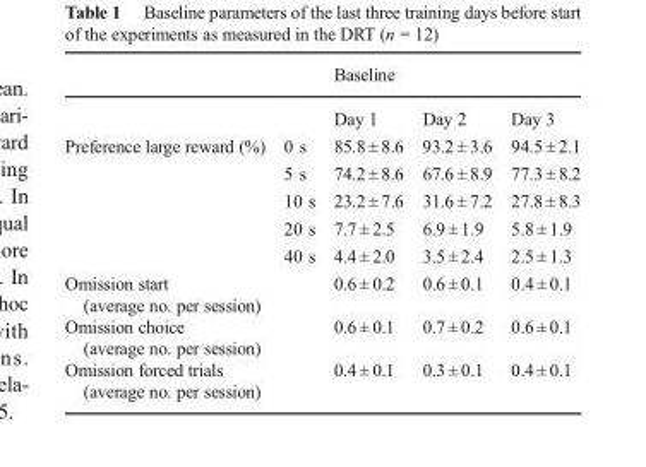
<table><thead><tr><td rowspan="2"></td><td rowspan="2"></td><td colspan="3">Baseline</td></tr><tr><td>Day 1</td><td>Day 2</td><td>Day 3</td></tr></thead><tbody><tr><td rowspan="5">Preference large reward (%)</td><td>0 s</td><td>85.8 ± 8.6</td><td>93.2 ± 3.6</td><td>94.5 ± 2.1</td></tr><tr><td>5 s</td><td>74.2 ± 8.6</td><td>67.6 ± 8.9</td><td>77.3 ± 8.2</td></tr><tr><td>10 s</td><td>23.2 ± 7.6</td><td>31.6 ± 7.2</td><td>27.8 ± 8.3</td></tr><tr><td>20 s</td><td>7.7 ± 2.5</td><td>6.9 ± 1.9</td><td>5.8 ± 1.9</td></tr><tr><td>40 s</td><td>4.4 ± 2.0</td><td>3.5 ± 2.4</td><td>2.5 ± 1.3</td></tr><tr><td>Omission start (average no. per session)</td><td></td><td>0.6 ± 0.2</td><td>0.6 ± 0.1</td><td>0.4 ± 0.1</td></tr><tr><td>Omission choice (average no. per session)</td><td></td><td>0.6 ± 0.1</td><td>0.7 ± 0.2</td><td>0.6 ± 0.1</td></tr><tr><td>Omission forced trials (average no. per session)</td><td></td><td>0.4 ± 0.1</td><td>0.3 ± 0.1</td><td>0.4 ± 0.1</td></tr></tbody></table>